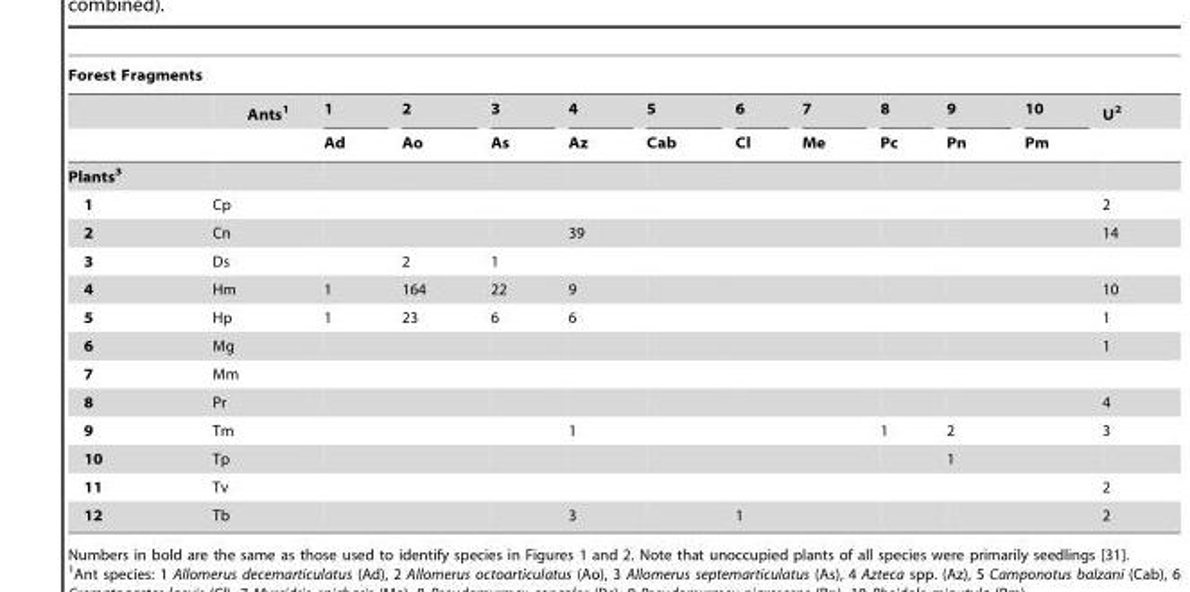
<table><thead><tr><td colspan="13">Forest Fragments</td></tr><tr><td rowspan="2"></td><td rowspan="2">Ants1</td><td rowspan="2">1 Ad</td><td rowspan="2">2 Ao</td><td rowspan="2">3 As</td><td rowspan="2">4 Az</td><td rowspan="2">5 Cab</td><td rowspan="2">6 Cl</td><td rowspan="2">7 Me</td><td rowspan="2">8 Pc</td><td rowspan="2">9 Pn</td><td rowspan="2">10 Pm</td><td rowspan="2">U2</td></tr><tr></tr></thead><tbody><tr><td colspan="13">Plants3</td></tr><tr><td>1</td><td>Cp</td><td></td><td></td><td></td><td></td><td></td><td></td><td></td><td></td><td></td><td></td><td>2</td></tr><tr><td>2</td><td>Cn</td><td></td><td></td><td></td><td>39</td><td></td><td></td><td></td><td></td><td></td><td></td><td>14</td></tr><tr><td>3</td><td>Ds</td><td></td><td>2</td><td>1</td><td></td><td></td><td></td><td></td><td></td><td></td><td></td><td></td></tr><tr><td>4</td><td>Hm</td><td>1</td><td>164</td><td>22</td><td>9</td><td></td><td></td><td></td><td></td><td></td><td></td><td>10</td></tr><tr><td>5</td><td>Hp</td><td>1</td><td>23</td><td>6</td><td>6</td><td></td><td></td><td></td><td></td><td></td><td></td><td>1</td></tr><tr><td>6</td><td>Mg</td><td></td><td></td><td></td><td></td><td></td><td></td><td></td><td></td><td></td><td></td><td>1</td></tr><tr><td>7</td><td>Mm</td><td></td><td></td><td></td><td></td><td></td><td></td><td></td><td></td><td></td><td></td><td></td></tr><tr><td>8</td><td>Pr</td><td></td><td></td><td></td><td></td><td></td><td></td><td></td><td></td><td></td><td></td><td>4</td></tr><tr><td>9</td><td>Tm</td><td></td><td></td><td></td><td>1</td><td></td><td></td><td></td><td>1</td><td>2</td><td></td><td>3</td></tr><tr><td>10</td><td>Tp</td><td></td><td></td><td></td><td></td><td></td><td></td><td></td><td></td><td>1</td><td></td><td></td></tr><tr><td>11</td><td>Tv</td><td></td><td></td><td></td><td></td><td></td><td></td><td></td><td></td><td></td><td></td><td>2</td></tr><tr><td>12</td><td>Tb</td><td></td><td></td><td></td><td>3</td><td></td><td>1</td><td></td><td></td><td></td><td></td><td>2</td></tr></tbody></table>